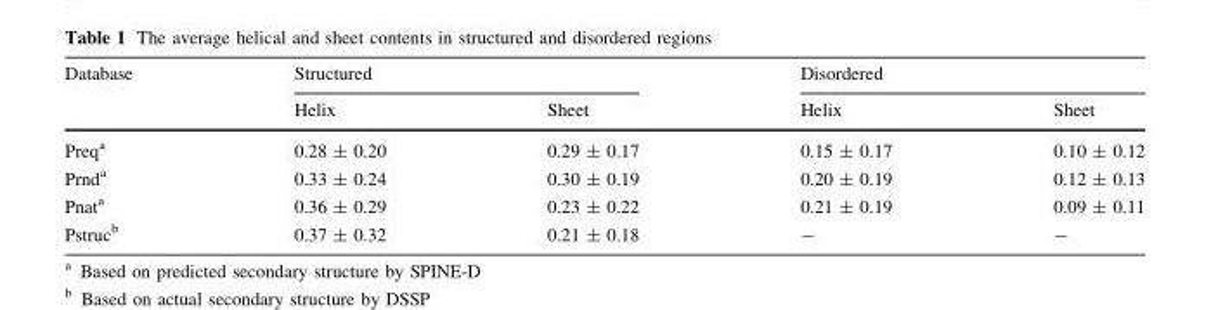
<table><thead><tr><td rowspan="2">Database</td><td colspan="2">Structured</td><td colspan="2">Disordered</td></tr><tr><td>Helix</td><td>Sheet</td><td>Helix</td><td>Sheet</td></tr></thead><tbody><tr><td>Preq<sup>a</sup></td><td>0.28 ± 0.20</td><td>0.29 ± 0.17</td><td>0.15 ± 0.17</td><td>0.10 ± 0.12</td></tr><tr><td>Prnd<sup>a</sup></td><td>0.33 ± 0.24</td><td>0.30 ± 0.19</td><td>0.20 ± 0.19</td><td>0.12 ± 0.13</td></tr><tr><td>Pnat<sup>a</sup></td><td>0.36 ± 0.29</td><td>0.23 ± 0.22</td><td>0.21 ± 0.19</td><td>0.09 ± 0.11</td></tr><tr><td>Pstruc<sup>b</sup></td><td>0.37 ± 0.32</td><td>0.21 ± 0.18</td><td>-</td><td>-</td></tr></tbody></table>